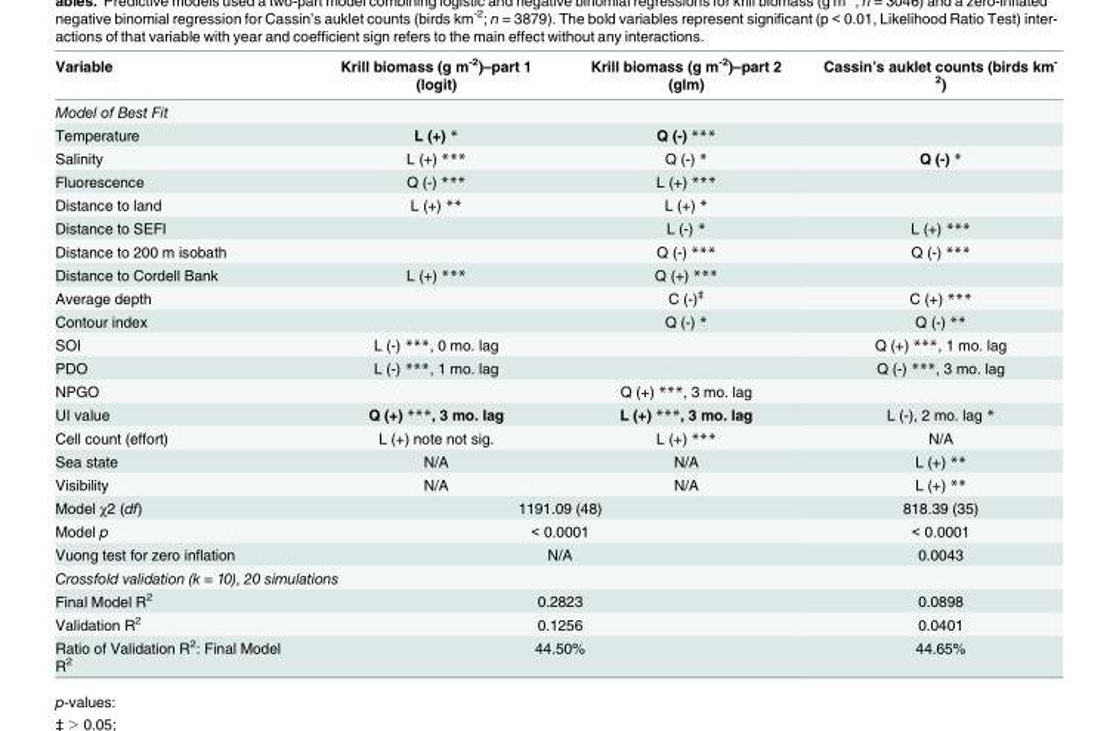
<table><thead><tr><td>Variable</td><td>Krill biomass (g m<sup>-2</sup>)–part 1 (logit)</td><td>Krill biomass (g m<sup>-2</sup>)–part 2 (glm)</td><td>Cassin’s auklet counts (birds km<sup>- 2</sup>)</td></tr></thead><tbody><tr><td colspan="4">Model of Best Fit</td></tr><tr><td>Temperature</td><td>L (+) *</td><td>Q (-) ***</td><td></td></tr><tr><td>Salinity</td><td>L (+) ***</td><td>Q (-) *</td><td>Q (-) *</td></tr><tr><td>Fluorescence</td><td>Q (-) ***</td><td>L (+) ***</td><td></td></tr><tr><td>Distance to land</td><td>L (+) **</td><td>L (+) *</td><td></td></tr><tr><td>Distance to SEFI</td><td></td><td>L (-) *</td><td>L (+) ***</td></tr><tr><td>Distance to 200 m isobath</td><td></td><td>Q (-) ***</td><td>Q (-) ***</td></tr><tr><td>Distance to Cordell Bank</td><td>L (+) ***</td><td>Q (+) ***</td><td></td></tr><tr><td>Average depth</td><td></td><td>C (-)<sup>‡</sup></td><td>C (+) ***</td></tr><tr><td>Contour index</td><td></td><td>Q (-) *</td><td>Q (-) **</td></tr><tr><td>SOI</td><td>L (-) ***, 0 mo. lag</td><td></td><td>Q (+) ***, 1 mo. lag</td></tr><tr><td>PDO</td><td>L (-) ***, 1 mo. lag</td><td></td><td>Q (-) ***, 3 mo. lag</td></tr><tr><td>NPGO</td><td></td><td>Q (+) ***, 3 mo. lag</td><td></td></tr><tr><td>UI value</td><td>Q (+) ***, 3 mo. lag</td><td>L (+) ***, 3 mo. lag</td><td>L (-), 2 mo. lag *</td></tr><tr><td>Cell count (effort)</td><td>L (+) note not sig.</td><td>L (+) ***</td><td>N/A</td></tr><tr><td>Sea state</td><td>N/A</td><td>N/A</td><td>L (+) **</td></tr><tr><td>Visibility</td><td>N/A</td><td>N/A</td><td>L (+) **</td></tr><tr><td>Model χ2 (df)</td><td colspan="2">1191.09 (48)</td><td>818.39 (35)</td></tr><tr><td>Model p</td><td colspan="2">&lt; 0.0001</td><td>&lt; 0.0001</td></tr><tr><td>Vuong test for zero inflation</td><td colspan="2">N/A</td><td>0.0043</td></tr><tr><td colspan="4">Crossfold validation (k = 10), 20 simulations</td></tr><tr><td>Final Model R<sup>2</sup></td><td colspan="2">0.2823</td><td>0.0898</td></tr><tr><td>Validation R<sup>2</sup></td><td colspan="2">0.1256</td><td>0.0401</td></tr><tr><td>Ratio of Validation R<sup>2</sup>: Final Model R<sup>2</sup></td><td colspan="2">44.50%</td><td>44.65%</td></tr></tbody></table>